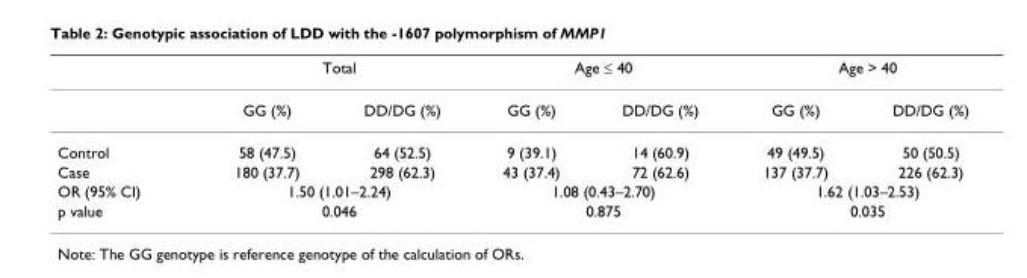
<table><thead><tr><td rowspan="2"></td><td colspan="2">Total</td><td colspan="2">Age ≤ 40</td><td colspan="2">Age &gt; 40</td></tr><tr><td>GG (%)</td><td>DD/DG (%)</td><td>GG (%)</td><td>DD/DG (%)</td><td>GG (%)</td><td>DD/DG (%)</td></tr></thead><tbody><tr><td>Control</td><td>58 (47.5)</td><td>64 (52.5)</td><td>9 (39.1)</td><td>14 (60.9)</td><td>49 (49.5)</td><td>50 (50.5)</td></tr><tr><td>Case</td><td>180 (37.7)</td><td>298 (62.3)</td><td>43 (37.4)</td><td>72 (62.6)</td><td>137 (37.7)</td><td>226 (62.3)</td></tr><tr><td>OR (95% CI)</td><td colspan="2">1.50 (1.01–2.24)</td><td colspan="2">1.08 (0.43–2.70)</td><td colspan="2">1.62 (1.03–2.53)</td></tr><tr><td>p value</td><td colspan="2">0.046</td><td colspan="2">0.875</td><td colspan="2">0.035</td></tr></tbody></table>